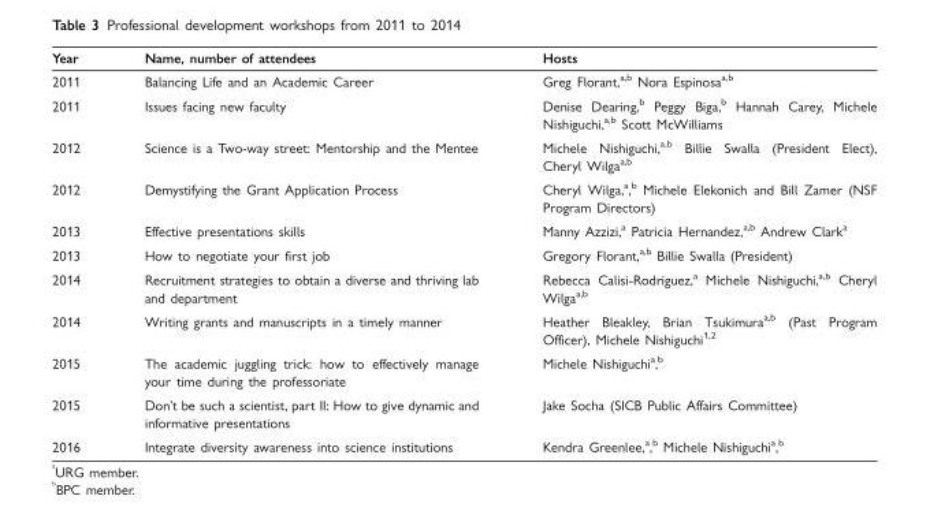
<table><thead><tr><td>Year</td><td>Name, number of attendees</td><td>Hosts</td></tr></thead><tbody><tr><td>2011</td><td>Balancing Life and an Academic Career</td><td>Greg Florant,<sup>a,b</sup> Nora Espinosa<sup>a,b</sup></td></tr><tr><td>2011</td><td>Issues facing new faculty</td><td>Denise Dearing,<sup>b</sup> Peggy Biga,<sup>b</sup> Hannah Carey, Michele Nishiguchi,<sup>a,b</sup> Scott McWilliams</td></tr><tr><td>2012</td><td>Science is a Two-way street: Mentorship and the Mentee</td><td>Michele Nishiguchi,<sup>a,b</sup> Billie Swalla (President Elect), Cheryl Wilga<sup>a,b</sup></td></tr><tr><td>2012</td><td>Demystifying the Grant Application Process</td><td>Cheryl Wilga,<sup>a</sup>,<sup>b</sup> Michele Elekonich and Bill Zamer (NSF Program Directors)</td></tr><tr><td>2013</td><td>Effective presentations skills</td><td>Manny Azzizi,<sup>a</sup> Patricia Hernandez,<sup>a,b</sup> Andrew Clark<sup>a</sup></td></tr><tr><td>2013</td><td>How to negotiate your first job</td><td>Gregory Florant,<sup>a,b</sup> Billie Swalla (President)</td></tr><tr><td>2014</td><td>Recruitment strategies to obtain a diverse and thriving lab and department</td><td>Rebecca Calisi-Rodriguez,<sup>a</sup> Michele Nishiguchi,<sup>a,b</sup> Cheryl Wilga<sup>a,b</sup></td></tr><tr><td>2014</td><td>Writing grants and manuscripts in a timely manner</td><td>Heather Bleakley, Brian Tsukimura<sup>a,b</sup> (Past Program Officer), Michele Nishiguchi<sup>1,2</sup></td></tr><tr><td>2015</td><td>The academic juggling trick: how to effectively manage your time during the professoriate</td><td>Michele Nishiguchi<sup>a</sup>,<sup>b</sup></td></tr><tr><td>2015</td><td>Don’t be such a scientist, part II: How to give dynamic and informative presentations</td><td>Jake Socha (SICB Public Affairs Committee)</td></tr><tr><td>2016</td><td>Integrate diversity awareness into science institutions</td><td>Kendra Greenlee,<sup>a</sup>,<sup>b</sup> Michele Nishiguchi<sup>a</sup>,<sup>b</sup></td></tr></tbody></table>